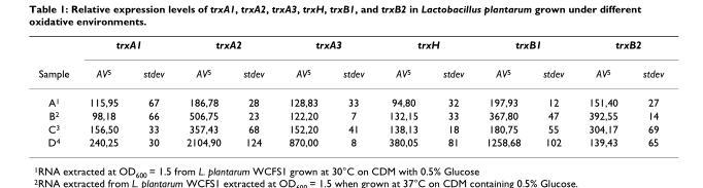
<table><thead><tr><td rowspan="2">Sample</td><td colspan="2">trxA1</td><td colspan="2">trxA2</td><td colspan="2">trxA3</td><td colspan="2">trxH</td><td colspan="2">trxB1</td><td colspan="2">trxB2</td></tr><tr><td>AV<sup>5</sup></td><td>stdev</td><td>AV<sup>5</sup></td><td>stdev</td><td>AV<sup>5</sup></td><td>stdev</td><td>AV<sup>5</sup></td><td>stdev</td><td>AV<sup>5</sup></td><td>stdev</td><td>AV<sup>5</sup></td><td>stdev</td></tr></thead><tbody><tr><td>A<sup>1</sup></td><td>115,95</td><td>67</td><td>186,78</td><td>28</td><td>128,83</td><td>33</td><td>94,80</td><td>32</td><td>197,93</td><td>12</td><td>151,40</td><td>27</td></tr><tr><td>B<sup>2</sup></td><td>98,18</td><td>66</td><td>506,75</td><td>23</td><td>122,20</td><td>7</td><td>132,15</td><td>33</td><td>367,80</td><td>47</td><td>392,55</td><td>14</td></tr><tr><td>C<sup>3</sup></td><td>156,50</td><td>33</td><td>357,43</td><td>68</td><td>152,20</td><td>41</td><td>138,13</td><td>18</td><td>180,75</td><td>55</td><td>304,17</td><td>69</td></tr><tr><td>D<sup>4</sup></td><td>240,25</td><td>30</td><td>2104,90</td><td>124</td><td>870,00</td><td>8</td><td>380,05</td><td>81</td><td>1258,68</td><td>102</td><td>139,43</td><td>65</td></tr></tbody></table>